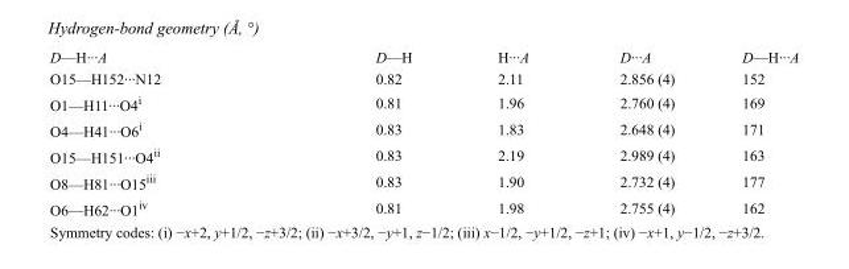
<table><tbody><tr><td>D—H···A</td><td>D—H</td><td>H···A</td><td>D···A</td><td>D—H···A</td></tr><tr><td>O15—H152···N12</td><td>0.82</td><td>2.11</td><td>2.856 (4)</td><td>152</td></tr><tr><td>O1—H11···O4<sup>i</sup></td><td>0.81</td><td>1.96</td><td>2.760 (4)</td><td>169</td></tr><tr><td>O4—H41···O6<sup>i</sup></td><td>0.83</td><td>1.83</td><td>2.648 (4)</td><td>171</td></tr><tr><td>O15—H151···O4<sup>ii</sup></td><td>0.83</td><td>2.19</td><td>2.989 (4)</td><td>163</td></tr><tr><td>O8—H81···O15<sup>iii</sup></td><td>0.83</td><td>1.90</td><td>2.732 (4)</td><td>177</td></tr><tr><td>O6—H62···O1<sup>iv</sup></td><td>0.81</td><td>1.98</td><td>2.755 (4)</td><td>162</td></tr></tbody></table>